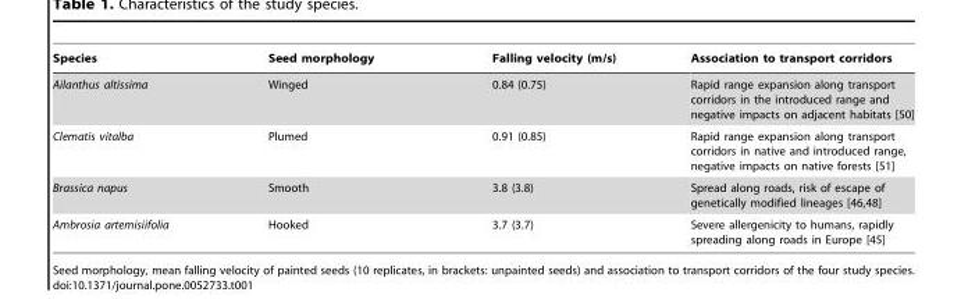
<table><thead><tr><td>Species</td><td>Seed morphology</td><td>Falling velocity (m/s)</td><td>Association to transport corridors</td></tr></thead><tbody><tr><td>Ailanthus altissima</td><td>Winged</td><td>0.84 (0.75)</td><td>Rapid range expansion along transport corridors in the introduced range and negative impacts on adjacent habitats [50]</td></tr><tr><td>Clematis vitalba</td><td>Plumed</td><td>0.91 (0.85)</td><td>Rapid range expansion along transport corridors in native and introduced range, negative impacts on native forests [51]</td></tr><tr><td>Brassica napus</td><td>Smooth</td><td>3.8 (3.8)</td><td>Spread along roads, risk of escape of genetically modified lineages [46,48]</td></tr><tr><td>Ambrosia artemisiifolia</td><td>Hooked</td><td>3.7 (3.7)</td><td>Severe allergenicity to humans, rapidly spreading along roads in Europe [45]</td></tr></tbody></table>